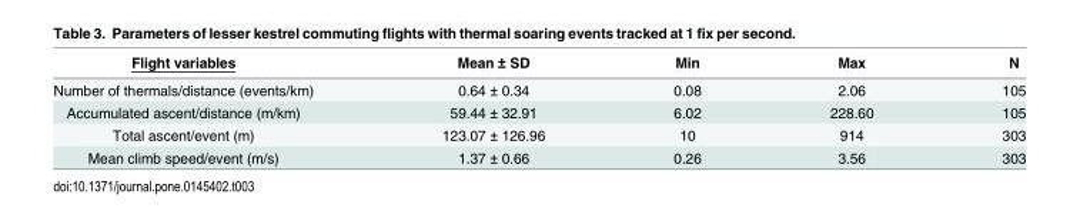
<table><thead><tr><td>Flight variables</td><td>Mean ± SD</td><td>Min</td><td>Max</td><td>N</td></tr></thead><tbody><tr><td>Number of thermals/distance (events/km)</td><td>0.64 ± 0.34</td><td>0.08</td><td>2.06</td><td>105</td></tr><tr><td>Accumulated ascent/distance (m/km)</td><td>59.44 ± 32.91</td><td>6.02</td><td>228.60</td><td>105</td></tr><tr><td>Total ascent/event (m)</td><td>123.07 ± 126.96</td><td>10</td><td>914</td><td>303</td></tr><tr><td>Mean climb speed/event (m/s)</td><td>1.37 ± 0.66</td><td>0.26</td><td>3.56</td><td>303</td></tr></tbody></table>